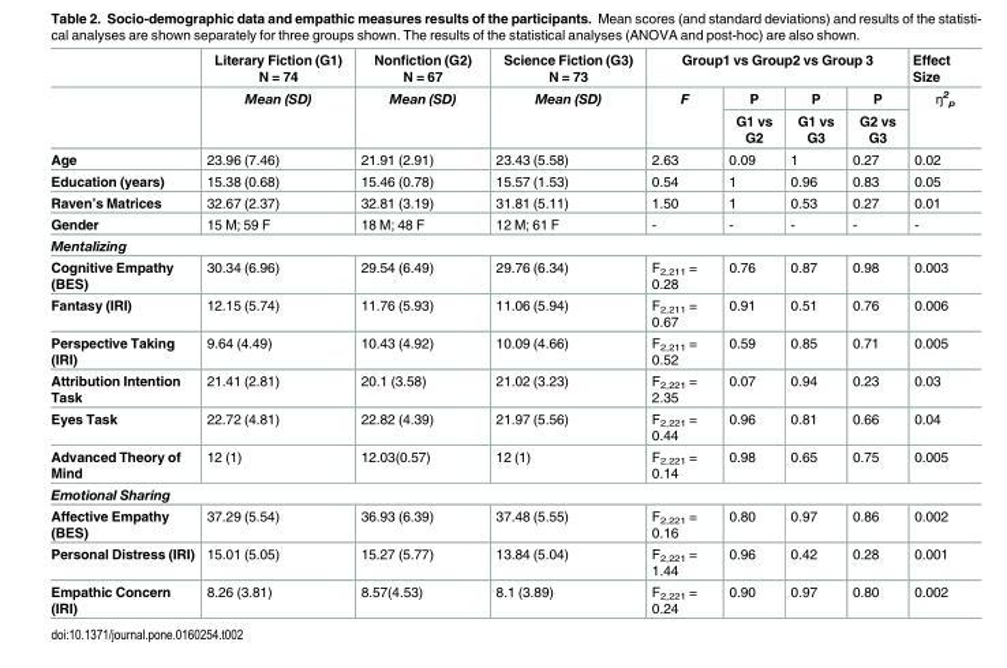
<table><thead><tr><td rowspan="3"></td><td rowspan="3">Literary Fiction (G1) N = 74 Mean (SD)</td><td rowspan="3">Nonfiction (G2) N = 67 Mean (SD)</td><td rowspan="3">Science Fiction (G3) N = 73 Mean (SD)</td><td colspan="4">Group1 vs Group2 vs Group 3</td><td rowspan="3">Effect Size ŋ<sup>2</sup> <sub>p</sub></td></tr><tr><td rowspan="2">F</td><td rowspan="2">P G1 vs G2</td><td rowspan="2">P G1 vs G3</td><td rowspan="2">P G2 vs G3</td></tr><tr></tr></thead><tbody><tr><td>Age</td><td>23.96 (7.46)</td><td>21.91 (2.91)</td><td>23.43 (5.58)</td><td>2.63</td><td>0.09</td><td>1</td><td>0.27</td><td>0.02</td></tr><tr><td>Education (years)</td><td>15.38 (0.68)</td><td>15.46 (0.78)</td><td>15.57 (1.53)</td><td>0.54</td><td>1</td><td>0.96</td><td>0.83</td><td>0.05</td></tr><tr><td>Raven’s Matrices</td><td>32.67 (2.37)</td><td>32.81 (3.19)</td><td>31.81 (5.11)</td><td>1.50</td><td>1</td><td>0.53</td><td>0.27</td><td>0.01</td></tr><tr><td>Gender</td><td>15 M; 59 F</td><td>18 M; 48 F</td><td>12 M; 61 F</td><td>-</td><td>-</td><td>-</td><td>-</td><td>-</td></tr><tr><td colspan="9">Mentalizing</td></tr><tr><td>Cognitive Empathy (BES)</td><td>30.34 (6.96)</td><td>29.54 (6.49)</td><td>29.76 (6.34)</td><td>F<sub>2,211</sub> = 0.28</td><td>0.76</td><td>0.87</td><td>0.98</td><td>0.003</td></tr><tr><td>Fantasy (IRI)</td><td>12.15 (5.74)</td><td>11.76 (5.93)</td><td>11.06 (5.94)</td><td>F<sub>2,211</sub> = 0.67</td><td>0.91</td><td>0.51</td><td>0.76</td><td>0.006</td></tr><tr><td>Perspective Taking (IRI)</td><td>9.64 (4.49)</td><td>10.43 (4.92)</td><td>10.09 (4.66)</td><td>F<sub>2,211</sub> = 0.52</td><td>0.59</td><td>0.85</td><td>0.71</td><td>0.005</td></tr><tr><td>Attribution Intention Task</td><td>21.41 (2.81)</td><td>20.1 (3.58)</td><td>21.02 (3.23)</td><td>F<sub>2,221</sub> = 2.35</td><td>0.07</td><td>0.94</td><td>0.23</td><td>0.03</td></tr><tr><td>Eyes Task</td><td>22.72 (4.81)</td><td>22.82 (4.39)</td><td>21.97 (5.56)</td><td>F<sub>2,221</sub> = 0.44</td><td>0.96</td><td>0.81</td><td>0.66</td><td>0.04</td></tr><tr><td>Advanced Theory of Mind</td><td>12 (1)</td><td>12.03(0.57)</td><td>12 (1)</td><td>F<sub>2,221</sub> = 0.14</td><td>0.98</td><td>0.65</td><td>0.75</td><td>0.005</td></tr><tr><td colspan="9">Emotional Sharing</td></tr><tr><td>Affective Empathy (BES)</td><td>37.29 (5.54)</td><td>36.93 (6.39)</td><td>37.48 (5.55)</td><td>F<sub>2,221</sub> = 0.16</td><td>0.80</td><td>0.97</td><td>0.86</td><td>0.002</td></tr><tr><td>Personal Distress (IRI)</td><td>15.01 (5.05)</td><td>15.27 (5.77)</td><td>13.84 (5.04)</td><td>F<sub>2,221</sub> = 1.44</td><td>0.96</td><td>0.42</td><td>0.28</td><td>0.001</td></tr><tr><td>Empathic Concern (IRI)</td><td>8.26 (3.81)</td><td>8.57(4.53)</td><td>8.1 (3.89)</td><td>F<sub>2,221</sub> = 0.24</td><td>0.90</td><td>0.97</td><td>0.80</td><td>0.002</td></tr></tbody></table>